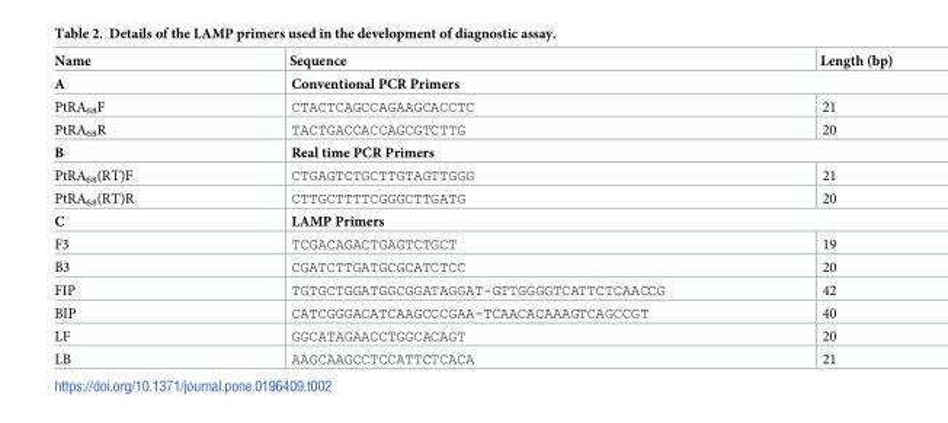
<table><thead><tr><td>Name</td><td>Sequence</td><td>Length (bp)</td></tr></thead><tbody><tr><td>A</td><td colspan="2">Conventional PCR Primers</td></tr><tr><td>PtRA<sub>68</sub>F</td><td>CTACTCAGCCAGAAGCACCTC</td><td>21</td></tr><tr><td>PtRA<sub>68</sub>R</td><td>TACTGACCACCAGCGTCTTG</td><td>20</td></tr><tr><td>B</td><td colspan="2">Real time PCR Primers</td></tr><tr><td>PtRA<sub>68</sub>(RT)F</td><td>CTGAGTCTGCTTGTAGTTGGG</td><td>21</td></tr><tr><td>PtRA<sub>68</sub>(RT)R</td><td>CTTGCTTTTCGGGCTTGATG</td><td>20</td></tr><tr><td>C</td><td colspan="2">LAMP Primers</td></tr><tr><td>F3</td><td>TCGACAGACTGAGTCTGCT</td><td>19</td></tr><tr><td>B3</td><td>CGATCTTGATGCGCATCTCC</td><td>20</td></tr><tr><td>FIP</td><td>TGTGCTGGATGGCGGATAGGAT-GTTGGGGTCATTCTCAACCG</td><td>42</td></tr><tr><td>BIP</td><td>CATCGGGACATCAAGCCCGAA-TCAACACAAAGTCAGCCGT</td><td>40</td></tr><tr><td>LF</td><td>GGCATAGAACCTGGCACAGT</td><td>20</td></tr><tr><td>LB</td><td>AAGCAAGCCTCCATTCTCACA</td><td>21</td></tr></tbody></table>